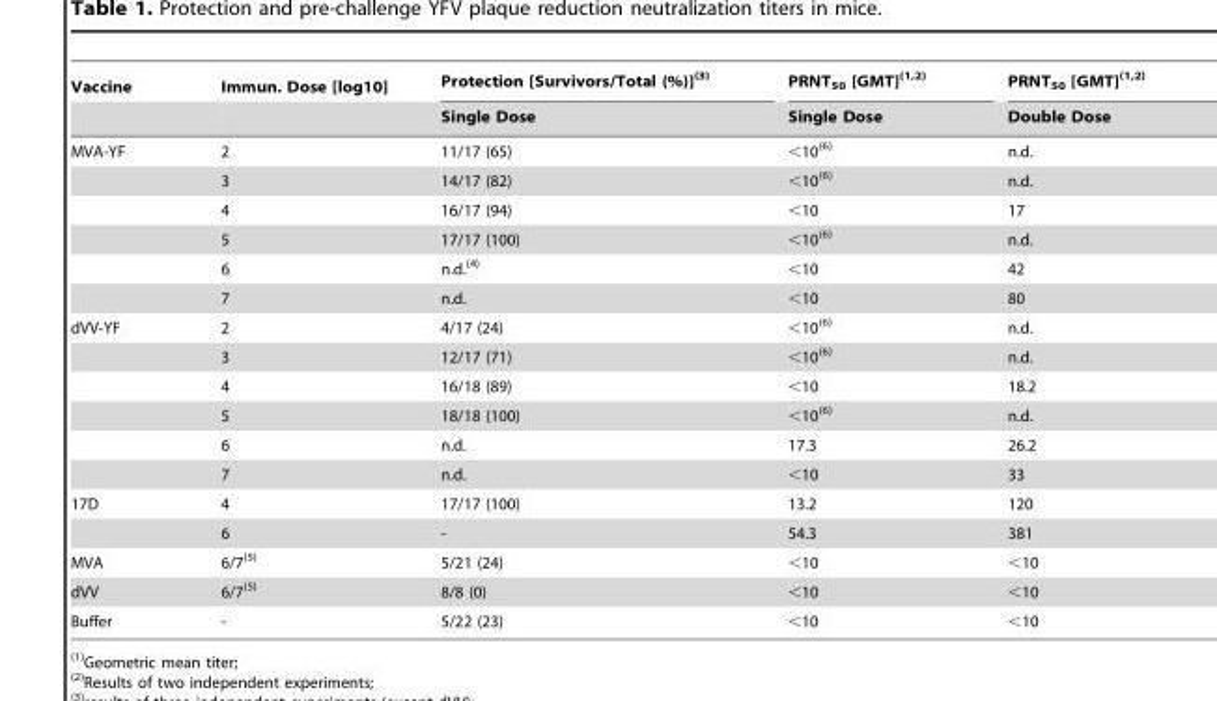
<table><thead><tr><td rowspan="2">Vaccine</td><td rowspan="2">Immun. Dose [log10]</td><td rowspan="2">Protection [Survivors/Total (%)](3) Single Dose</td><td rowspan="2">PRNT<sub>50</sub> [GMT](1<sup>,</sup>2) Single Dose</td><td rowspan="2">PRNT<sub>50</sub> [GMT](1<sup>,</sup>2) Double Dose</td></tr><tr></tr></thead><tbody><tr><td rowspan="6">MVA-YF</td><td>2</td><td>11/17 (65)</td><td>&lt;10(6)</td><td>n.d.</td></tr><tr><td>3</td><td>14/17 (82)</td><td>&lt;10(6)</td><td>n.d.</td></tr><tr><td>4</td><td>16/17 (94)</td><td>&lt;10</td><td>17</td></tr><tr><td>5</td><td>17/17 (100)</td><td>&lt;10(6)</td><td>n.d.</td></tr><tr><td>6</td><td>n.d.(4)</td><td>&lt;10</td><td>42</td></tr><tr><td>7</td><td>n.d.</td><td>&lt;10</td><td>80</td></tr><tr><td rowspan="6">dVV-YF</td><td>2</td><td>4/17 (24)</td><td>&lt;10(6)</td><td>n.d.</td></tr><tr><td>3</td><td>12/17 (71)</td><td>&lt;10(6)</td><td>n.d.</td></tr><tr><td>4</td><td>16/18 (89)</td><td>&lt;10</td><td>18.2</td></tr><tr><td>5</td><td>18/18 (100)</td><td>&lt;10(6)</td><td>n.d.</td></tr><tr><td>6</td><td>n.d.</td><td>17.3</td><td>26.2</td></tr><tr><td>7</td><td>n.d.</td><td>&lt;10</td><td>33</td></tr><tr><td rowspan="2">17D</td><td>4</td><td>17/17 (100)</td><td>13.2</td><td>120</td></tr><tr><td>6</td><td>-</td><td>54.3</td><td>381</td></tr><tr><td>MVA</td><td>6/7(5)</td><td>5/21 (24)</td><td>&lt;10</td><td>&lt;10</td></tr><tr><td>dVV</td><td>6/7(5)</td><td>8/8 (0)</td><td>&lt;10</td><td>&lt;10</td></tr><tr><td>Buffer</td><td>-</td><td>5/22 (23)</td><td>&lt;10</td><td>&lt;10</td></tr></tbody></table>